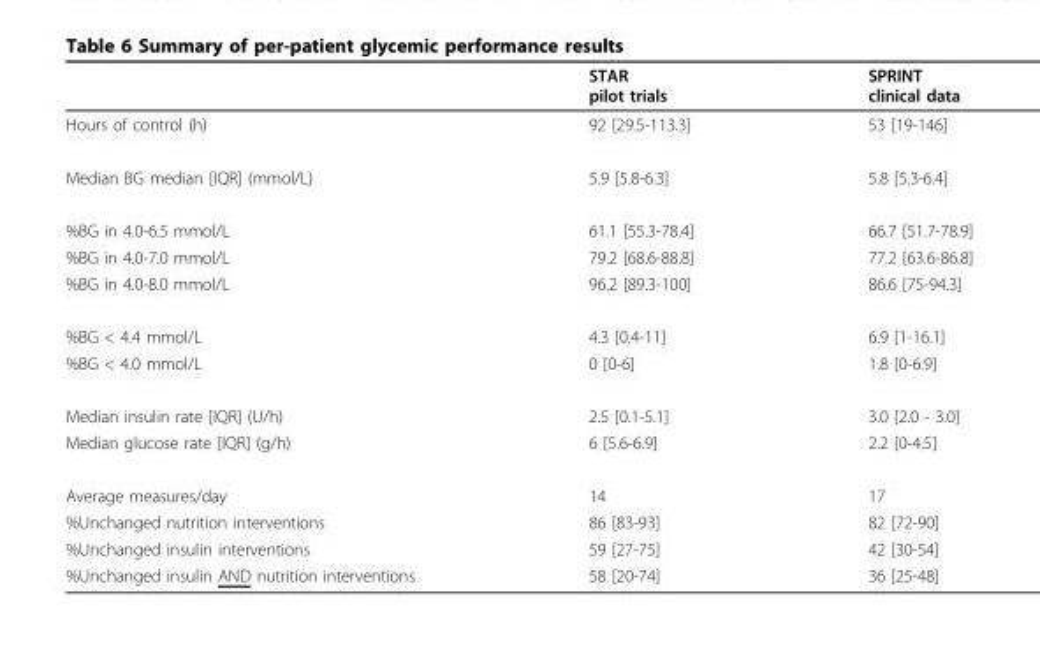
<table><thead><tr><td></td><td>STAR pilot trials</td><td>SPRINT clinical data</td></tr></thead><tbody><tr><td>Hours of control (h)</td><td>92 [29.5-113.3]</td><td>53 [19-146]</td></tr><tr><td>Median BG median [IQR] (mmol/L)</td><td>5.9 [5.8-6.3]</td><td>5.8 [5.3-6.4]</td></tr><tr><td>%BG in 4.0-6.5 mmol/L</td><td>61.1 [55.3-78.4]</td><td>66.7 [51.7-78.9]</td></tr><tr><td>%BG in 4.0-7.0 mmol/L</td><td>79.2 [68.6-88.8]</td><td>77.2 [63.6-86.8]</td></tr><tr><td>%BG in 4.0-8.0 mmol/L</td><td>96.2 [89.3-100]</td><td>86.6 [75-94.3]</td></tr><tr><td>%BG &lt; 4.4 mmol/L</td><td>4.3 [0.4-11]</td><td>6.9 [1-16.1]</td></tr><tr><td>%BG &lt; 4.0 mmol/L</td><td>0 [0-6]</td><td>1.8 [0-6.9]</td></tr><tr><td>Median insulin rate [IQR] (U/h)</td><td>2.5 [0.1-5.1]</td><td>3.0 [2.0 - 3.0]</td></tr><tr><td>Median glucose rate [IQR] (g/h)</td><td>6 [5.6-6.9]</td><td>2.2 [0-4.5]</td></tr><tr><td>Average measures/day</td><td>14</td><td>17</td></tr><tr><td>%Unchanged nutrition interventions</td><td>86 [83-93]</td><td>82 [72-90]</td></tr><tr><td>%Unchanged insulin interventions</td><td>59 [27-75]</td><td>42 [30-54]</td></tr><tr><td>%Unchanged insulin AND nutrition interventions</td><td>58 [20-74]</td><td>36 [25-48]</td></tr></tbody></table>